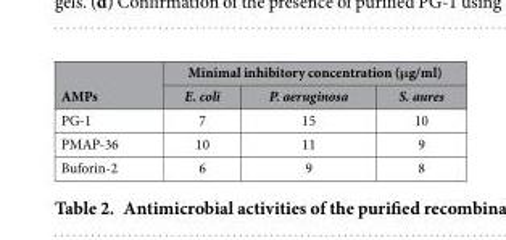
<table><thead><tr><td rowspan="2">AMPs</td><td colspan="3">Minimal inhibitory concentration (μg/ml)</td></tr><tr><td>E. coli</td><td>P. aeruginosa</td><td>S. aures</td></tr></thead><tbody><tr><td>PG-1</td><td>7</td><td>15</td><td>10</td></tr><tr><td>PMAP-36</td><td>10</td><td>11</td><td>9</td></tr><tr><td>Buforin-2</td><td>6</td><td>9</td><td>8</td></tr></tbody></table>